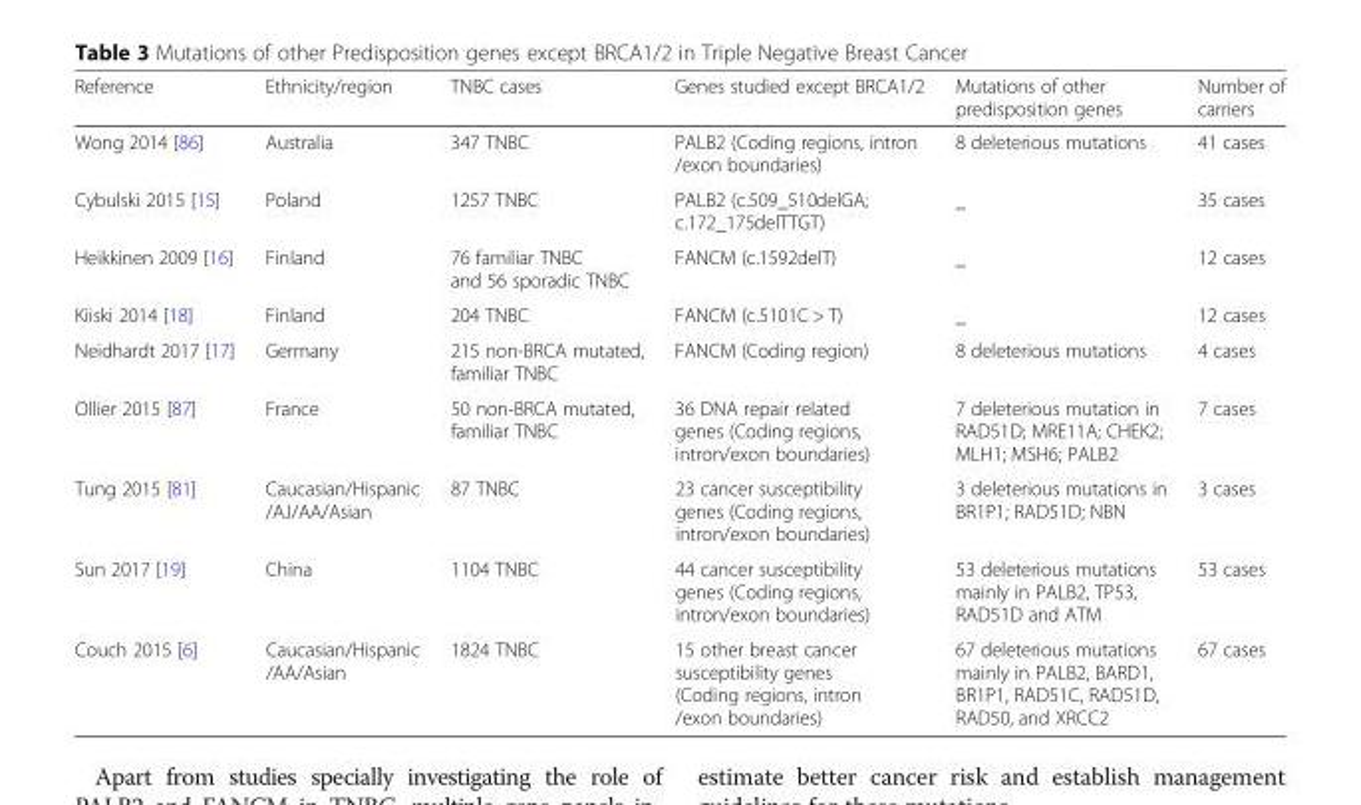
<table><thead><tr><td>Reference</td><td>Ethnicity/region</td><td>TNBC cases</td><td>Genes studied except BRCA1/2</td><td>Mutations of other predisposition genes</td><td>Number of carriers</td></tr></thead><tbody><tr><td>Wong 2014 [86]</td><td>Australia</td><td>347 TNBC</td><td>PALB2 (Coding regions, intron /exon boundaries)</td><td>8 deleterious mutations</td><td>41 cases</td></tr><tr><td>Cybulski 2015 [15]</td><td>Poland</td><td>1257 TNBC</td><td>PALB2 (c.509_510delGA; c.172_175delTTGT)</td><td>_</td><td>35 cases</td></tr><tr><td>Heikkinen 2009 [16]</td><td>Finland</td><td>76 familiar TNBC and 56 sporadic TNBC</td><td>FANCM (c.1592delT)</td><td>_</td><td>12 cases</td></tr><tr><td>Kiiski 2014 [18]</td><td>Finland</td><td>204 TNBC</td><td>FANCM (c.5101C &gt; T)</td><td>_</td><td>12 cases</td></tr><tr><td>Neidhardt 2017 [17]</td><td>Germany</td><td>215 non-BRCA mutated, familiar TNBC</td><td>FANCM (Coding region)</td><td>8 deleterious mutations</td><td>4 cases</td></tr><tr><td>Ollier 2015 [87]</td><td>France</td><td>50 non-BRCA mutated, familiar TNBC</td><td>36 DNA repair related genes (Coding regions, intron/exon boundaries)</td><td>7 deleterious mutation in RAD51D; MRE11A; CHEK2; MLH1; MSH6; PALB2</td><td>7 cases</td></tr><tr><td>Tung 2015 [81]</td><td>Caucasian/Hispanic /AJ/AA/Asian</td><td>87 TNBC</td><td>23 cancer susceptibility genes (Coding regions, intron/exon boundaries)</td><td>3 deleterious mutations in BR1P1; RAD51D; NBN</td><td>3 cases</td></tr><tr><td>Sun 2017 [19]</td><td>China</td><td>1104 TNBC</td><td>44 cancer susceptibility genes (Coding regions, intron/exon boundaries)</td><td>53 deleterious mutations mainly in PALB2, TP53, RAD51D and ATM</td><td>53 cases</td></tr><tr><td>Couch 2015 [6]</td><td>Caucasian/Hispanic /AA/Asian</td><td>1824 TNBC</td><td>15 other breast cancer susceptibility genes (Coding regions, intron /exon boundaries)</td><td>67 deleterious mutations mainly in PALB2, BARD1, BR1P1, RAD51C, RAD51D, RAD50, and XRCC2</td><td>67 cases</td></tr></tbody></table>